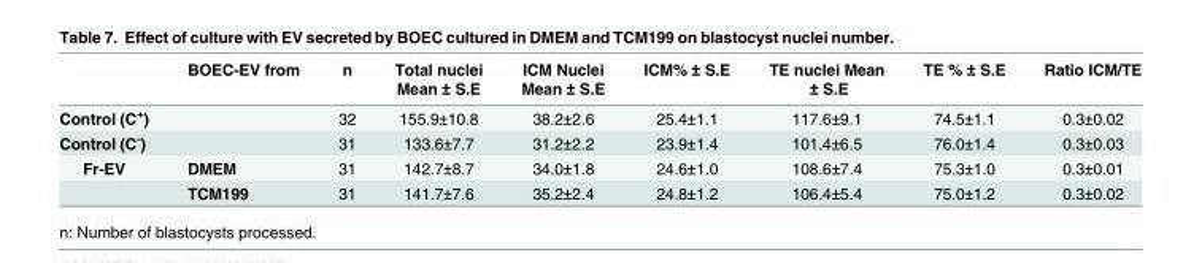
<table><thead><tr><td></td><td>BOEC-EV from</td><td>n</td><td>Total nuclei Mean ± S.E</td><td>ICM Nuclei Mean ± S.E</td><td>ICM% ± S.E</td><td>TE nuclei Mean ± S.E</td><td>TE % ± S.E</td><td>Ratio ICM/TE</td></tr></thead><tbody><tr><td>Control (C<sup>+</sup>)</td><td></td><td>32</td><td>155.9±10.8</td><td>38.2±2.6</td><td>25.4±1.1</td><td>117.6±9.1</td><td>74.5±1.1</td><td>0.3±0.02</td></tr><tr><td>Control (C<sup>-</sup>)</td><td></td><td>31</td><td>133.6±7.7</td><td>31.2±2.2</td><td>23.9±1.4</td><td>101.4±6.5</td><td>76.0±1.4</td><td>0.3±0.03</td></tr><tr><td rowspan="2">Fr-EV</td><td>DMEM</td><td>31</td><td>142.7±8.7</td><td>34.0±1.8</td><td>24.6±1.0</td><td>108.6±7.4</td><td>75.3±1.0</td><td>0.3±0.01</td></tr><tr><td>TCM199</td><td>31</td><td>141.7±7.6</td><td>35.2±2.4</td><td>24.8±1.2</td><td>106.4±5.4</td><td>75.0±1.2</td><td>0.3±0.02</td></tr></tbody></table>